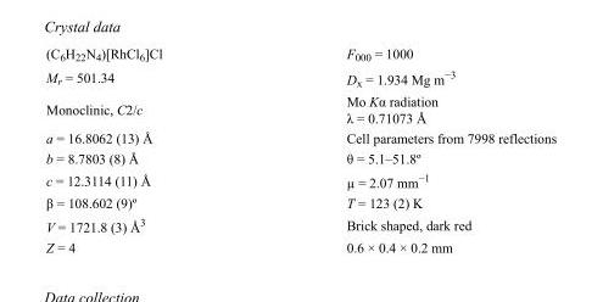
<table><tbody><tr><td>(C<sub>6</sub>H<sub>22</sub>N<sub>4</sub>)[RhCl<sub>6</sub>]Cl</td><td>F<sub>000</sub> = 1000</td></tr><tr><td>M<sub>r</sub> = 501.34</td><td>D<sub>x</sub> = 1.934 Mg m<sup>−3</sup></td></tr><tr><td>Monoclinic, C2/c</td><td>Mo Kα radiation λ = 0.71073 Å</td></tr><tr><td>a = 16.8062 (13) Å</td><td>Cell parameters from 7998 reflections</td></tr><tr><td>b = 8.7803 (8) Å</td><td>θ = 5.1–51.8º</td></tr><tr><td>c = 12.3114 (11) Å</td><td>µ = 2.07 mm<sup>−1</sup></td></tr><tr><td>β = 108.602 (9)º</td><td>T = 123 (2) K</td></tr><tr><td>V = 1721.8 (3) Å<sup>3</sup></td><td>Brick shaped, dark red</td></tr><tr><td>Z = 4</td><td>0.6 × 0.4 × 0.2 mm</td></tr></tbody></table>